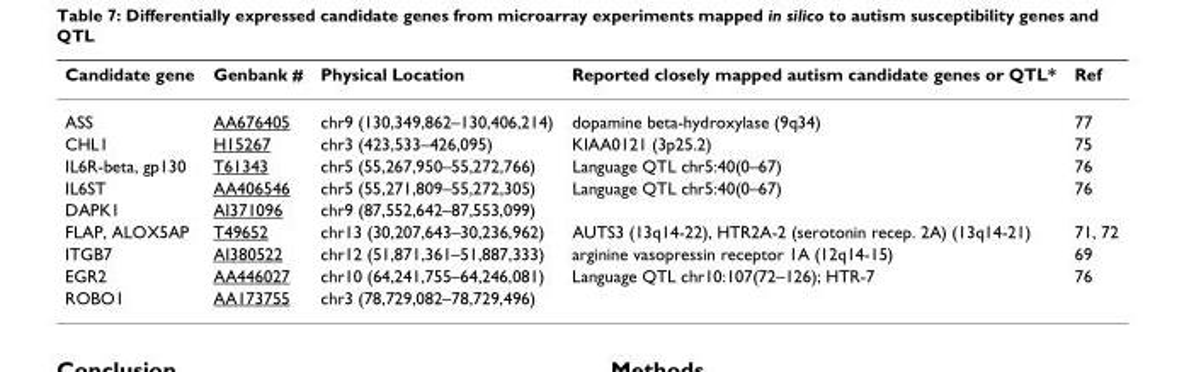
<table><thead><tr><td>Candidate gene</td><td>Genbank #</td><td>Physical Location</td><td>Reported closely mapped autism candidate genes or QTL*</td><td>Ref</td></tr></thead><tbody><tr><td>ASS</td><td>AA676405</td><td>chr9 (130,349,862–130,406,214)</td><td>dopamine beta-hydroxylase (9q34)</td><td>77</td></tr><tr><td>CHL1</td><td>H15267</td><td>chr3 (423,533–426,095)</td><td>KIAA0121 (3p25.2)</td><td>75</td></tr><tr><td>IL6R-beta, gp130</td><td>T61343</td><td>chr5 (55,267,950–55,272,766)</td><td>Language QTL chr5:40(0–67)</td><td>76</td></tr><tr><td>IL6ST</td><td>AA406546</td><td>chr5 (55,271,809–55,272,305)</td><td>Language QTL chr5:40(0–67)</td><td>76</td></tr><tr><td>DAPK1</td><td>AI371096</td><td>chr9 (87,552,642–87,553,099)</td><td></td><td></td></tr><tr><td>FLAP, ALOX5AP</td><td>T49652</td><td>chr13 (30,207,643–30,236,962)</td><td>AUTS3 (13q14-22), HTR2A-2 (serotonin recep. 2A) (13q14-21)</td><td>71, 72</td></tr><tr><td>ITGB7</td><td>AI380522</td><td>chr12 (51,871,361–51,887,333)</td><td>arginine vasopressin receptor 1A (12q14-15)</td><td>69</td></tr><tr><td>EGR2</td><td>AA446027</td><td>chr10 (64,241,755–64,246,081)</td><td>Language QTL chr10:107(72–126); HTR-7</td><td>76</td></tr><tr><td>ROBO1</td><td>AA173755</td><td>chr3 (78,729,082–78,729,496)</td><td></td><td></td></tr></tbody></table>